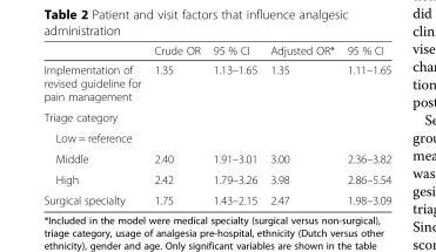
<table><thead><tr><td></td><td>Crude OR</td><td>95 % CI</td><td>Adjusted OR*</td><td>95 % CI</td></tr></thead><tbody><tr><td>Implementation of revised guideline for pain management</td><td>1.35</td><td>1.13–1.65</td><td>1.35</td><td>1.11–1.65</td></tr><tr><td colspan="5">Triage category</td></tr><tr><td colspan="5">Low = reference</td></tr><tr><td>Middle</td><td>2.40</td><td>1.91–3.01</td><td>3.00</td><td>2.36–3.82</td></tr><tr><td>High</td><td>2.42</td><td>1.79–3.26</td><td>3.98</td><td>2.86–5.54</td></tr><tr><td>Surgical specialty</td><td>1.75</td><td>1.43–2.15</td><td>2.47</td><td>1.98–3.09</td></tr></tbody></table>